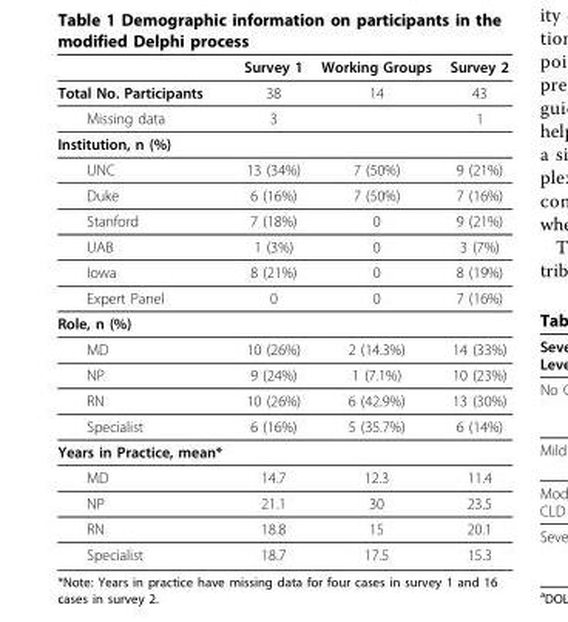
<table><thead><tr><td></td><td>Survey 1</td><td>Working Groups</td><td>Survey 2</td></tr></thead><tbody><tr><td>Total No. Participants</td><td>38</td><td>14</td><td>43</td></tr><tr><td>Missing data</td><td>3</td><td></td><td>1</td></tr><tr><td colspan="4">Institution, n (%)</td></tr><tr><td>UNC</td><td>13 (34%)</td><td>7 (50%)</td><td>9 (21%)</td></tr><tr><td>Duke</td><td>6 (16%)</td><td>7 (50%)</td><td>7 (16%)</td></tr><tr><td>Stanford</td><td>7 (18%)</td><td>0</td><td>9 (21%)</td></tr><tr><td>UAB</td><td>1 (3%)</td><td>0</td><td>3 (7%)</td></tr><tr><td>Iowa</td><td>8 (21%)</td><td>0</td><td>8 (19%)</td></tr><tr><td>Expert Panel</td><td>0</td><td>0</td><td>7 (16%)</td></tr><tr><td colspan="4">Role, n (%)</td></tr><tr><td>MD</td><td>10 (26%)</td><td>2 (14.3%)</td><td>14 (33%)</td></tr><tr><td>NP</td><td>9 (24%)</td><td>1 (7.1%)</td><td>10 (23%)</td></tr><tr><td>RN</td><td>10 (26%)</td><td>6 (42.9%)</td><td>13 (30%)</td></tr><tr><td>Specialist</td><td>6 (16%)</td><td>5 (35.7%)</td><td>6 (14%)</td></tr><tr><td colspan="4">Years in Practice, mean*</td></tr><tr><td>MD</td><td>14.7</td><td>12.3</td><td>11.4</td></tr><tr><td>NP</td><td>21.1</td><td>30</td><td>23.5</td></tr><tr><td>RN</td><td>18.8</td><td>15</td><td>20.1</td></tr><tr><td>Specialist</td><td>18.7</td><td>17.5</td><td>15.3</td></tr></tbody></table>